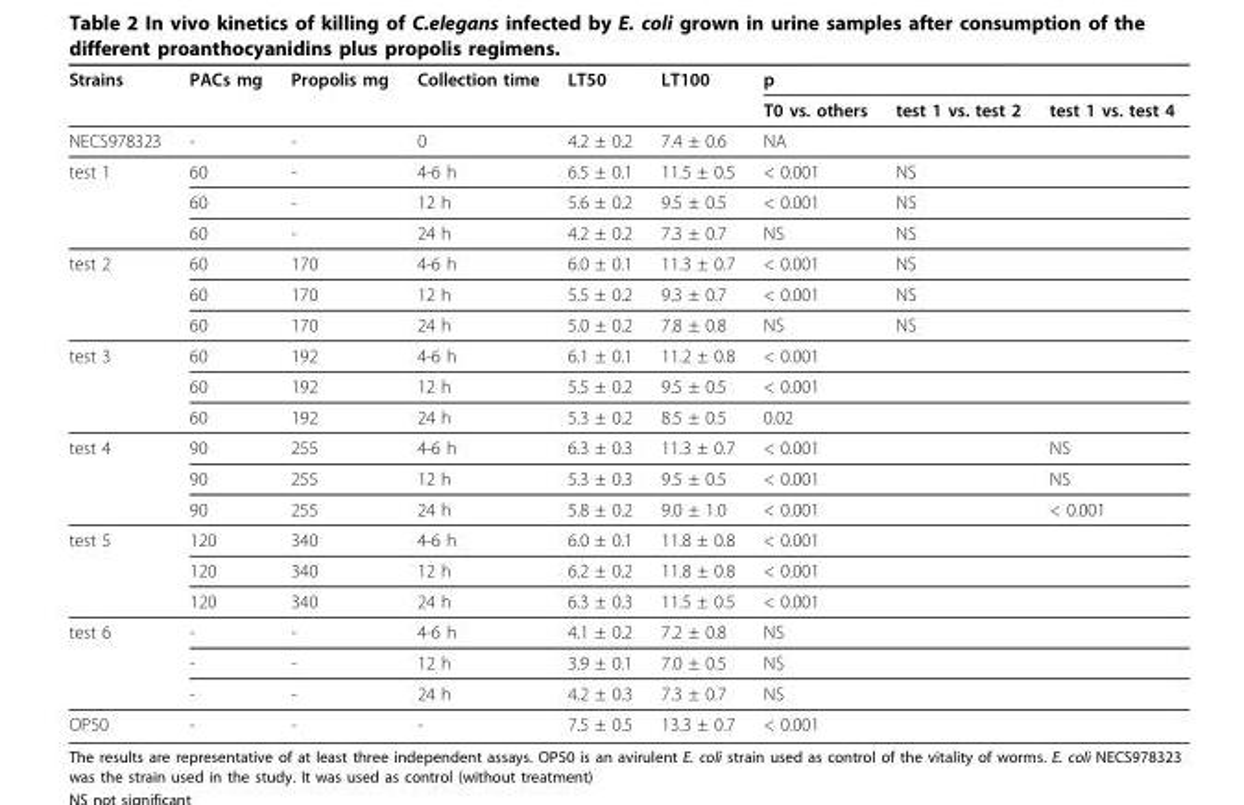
<table><thead><tr><td rowspan="2">Strains</td><td rowspan="2">PACs mg</td><td rowspan="2">Propolis mg</td><td rowspan="2">Collection time</td><td rowspan="2">LT50</td><td rowspan="2">LT100</td><td colspan="3">p</td></tr><tr><td>T0 vs. others</td><td>test 1 vs. test 2</td><td>test 1 vs. test 4</td></tr></thead><tbody><tr><td>NECS978323</td><td>-</td><td>-</td><td>0</td><td>4.2 ± 0.2</td><td>7.4 ± 0.6</td><td>NA</td><td></td><td></td></tr><tr><td rowspan="3">test 1</td><td>60</td><td>-</td><td>4-6 h</td><td>6.5 ± 0.1</td><td>11.5 ± 0.5</td><td>&lt; 0.001</td><td>NS</td><td></td></tr><tr><td>60</td><td>-</td><td>12 h</td><td>5.6 ± 0.2</td><td>9.5 ± 0.5</td><td>&lt; 0.001</td><td>NS</td><td></td></tr><tr><td>60</td><td>-</td><td>24 h</td><td>4.2 ± 0.2</td><td>7.3 ± 0.7</td><td>NS</td><td>NS</td><td></td></tr><tr><td rowspan="3">test 2</td><td>60</td><td>170</td><td>4-6 h</td><td>6.0 ± 0.1</td><td>11.3 ± 0.7</td><td>&lt; 0.001</td><td>NS</td><td></td></tr><tr><td>60</td><td>170</td><td>12 h</td><td>5.5 ± 0.2</td><td>9.3 ± 0.7</td><td>&lt; 0.001</td><td>NS</td><td></td></tr><tr><td>60</td><td>170</td><td>24 h</td><td>5.0 ± 0.2</td><td>7.8 ± 0.8</td><td>NS</td><td>NS</td><td></td></tr><tr><td rowspan="3">test 3</td><td>60</td><td>192</td><td>4-6 h</td><td>6.1 ± 0.1</td><td>11.2 ± 0.8</td><td>&lt; 0.001</td><td></td><td></td></tr><tr><td>60</td><td>192</td><td>12 h</td><td>5.5 ± 0.2</td><td>9.5 ± 0.5</td><td>&lt; 0.001</td><td></td><td></td></tr><tr><td>60</td><td>192</td><td>24 h</td><td>5.3 ± 0.2</td><td>8.5 ± 0.5</td><td>0.02</td><td></td><td></td></tr><tr><td rowspan="3">test 4</td><td>90</td><td>255</td><td>4-6 h</td><td>6.3 ± 0.3</td><td>11.3 ± 0.7</td><td>&lt; 0.001</td><td></td><td>NS</td></tr><tr><td>90</td><td>255</td><td>12 h</td><td>5.3 ± 0.3</td><td>9.5 ± 0.5</td><td>&lt; 0.001</td><td></td><td>NS</td></tr><tr><td>90</td><td>255</td><td>24 h</td><td>5.8 ± 0.2</td><td>9.0 ± 1.0</td><td>&lt; 0.001</td><td></td><td>&lt; 0.001</td></tr><tr><td rowspan="3">test 5</td><td>120</td><td>340</td><td>4-6 h</td><td>6.0 ± 0.1</td><td>11.8 ± 0.8</td><td>&lt; 0.001</td><td></td><td></td></tr><tr><td>120</td><td>340</td><td>12 h</td><td>6.2 ± 0.2</td><td>11.8 ± 0.8</td><td>&lt; 0.001</td><td></td><td></td></tr><tr><td>120</td><td>340</td><td>24 h</td><td>6.3 ± 0.3</td><td>11.5 ± 0.5</td><td>&lt; 0.001</td><td></td><td></td></tr><tr><td rowspan="3">test 6</td><td>-</td><td>-</td><td>4-6 h</td><td>4.1 ± 0.2</td><td>7.2 ± 0.8</td><td>NS</td><td></td><td></td></tr><tr><td>-</td><td>-</td><td>12 h</td><td>3.9 ± 0.1</td><td>7.0 ± 0.5</td><td>NS</td><td></td><td></td></tr><tr><td>-</td><td>-</td><td>24 h</td><td>4.2 ± 0.3</td><td>7.3 ± 0.7</td><td>NS</td><td></td><td></td></tr><tr><td>OP50</td><td>-</td><td>-</td><td>-</td><td>7.5 ± 0.5</td><td>13.3 ± 0.7</td><td>&lt; 0.001</td><td></td><td></td></tr></tbody></table>